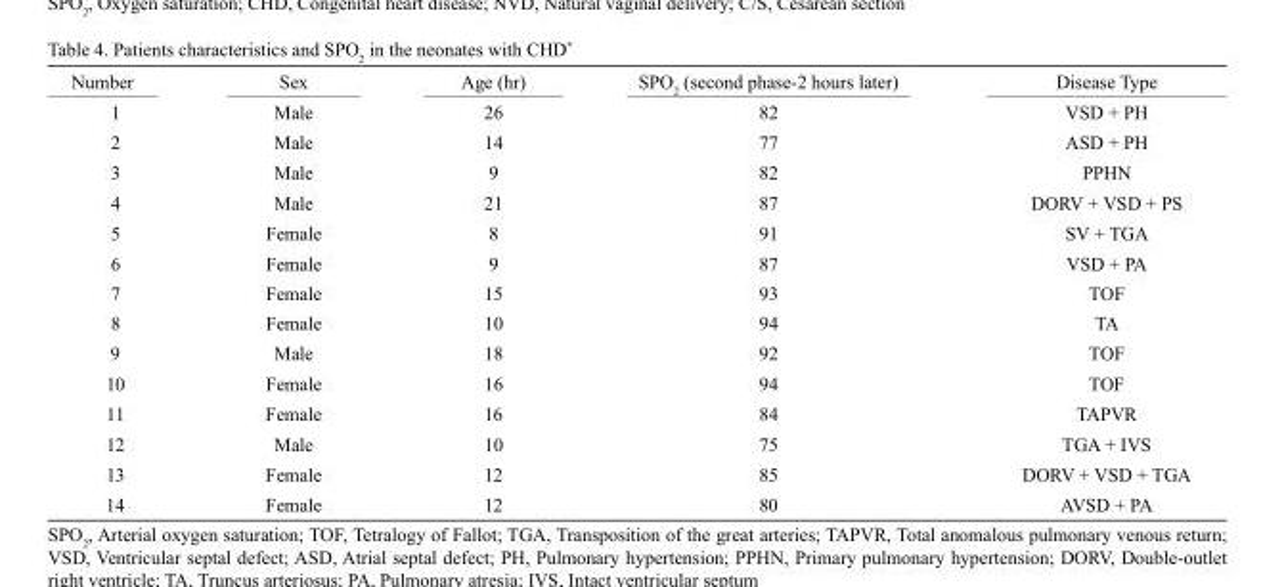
<table><thead><tr><td>Number</td><td>Sex</td><td>Age (hr)</td><td>SPO<sub>2</sub> (second phase-2 hours later)</td><td>Disease Type</td></tr></thead><tbody><tr><td>1</td><td>Male</td><td>26</td><td>82</td><td>VSD + PH</td></tr><tr><td>2</td><td>Male</td><td>14</td><td>77</td><td>ASD + PH</td></tr><tr><td>3</td><td>Male</td><td>9</td><td>82</td><td>PPHN</td></tr><tr><td>4</td><td>Male</td><td>21</td><td>87</td><td>DORV + VSD + PS</td></tr><tr><td>5</td><td>Female</td><td>8</td><td>91</td><td>SV + TGA</td></tr><tr><td>6</td><td>Female</td><td>9</td><td>87</td><td>VSD + PA</td></tr><tr><td>7</td><td>Female</td><td>15</td><td>93</td><td>TOF</td></tr><tr><td>8</td><td>Female</td><td>10</td><td>94</td><td>TA</td></tr><tr><td>9</td><td>Male</td><td>18</td><td>92</td><td>TOF</td></tr><tr><td>10</td><td>Female</td><td>16</td><td>94</td><td>TOF</td></tr><tr><td>11</td><td>Female</td><td>16</td><td>84</td><td>TAPVR</td></tr><tr><td>12</td><td>Male</td><td>10</td><td>75</td><td>TGA + IVS</td></tr><tr><td>13</td><td>Female</td><td>12</td><td>85</td><td>DORV + VSD + TGA</td></tr><tr><td>14</td><td>Female</td><td>12</td><td>80</td><td>AVSD + PA</td></tr></tbody></table>